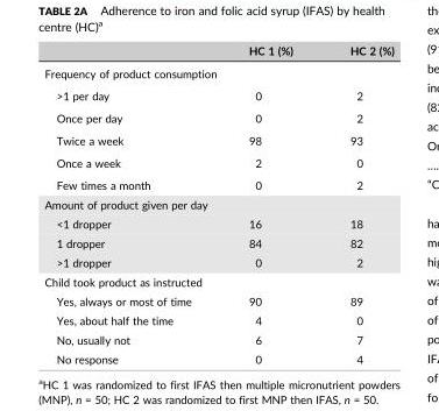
<table><thead><tr><td></td><td>HC 1 (%)</td><td>HC 2 (%)</td></tr></thead><tbody><tr><td colspan="3">Frequency of product consumption</td></tr><tr><td>&gt;1 per day</td><td>0</td><td>2</td></tr><tr><td>Once per day</td><td>0</td><td>2</td></tr><tr><td>Twice a week</td><td>98</td><td>93</td></tr><tr><td>Once a week</td><td>2</td><td>0</td></tr><tr><td>Few times a month</td><td>0</td><td>2</td></tr><tr><td colspan="3">Amount of product given per day</td></tr><tr><td>&lt;1 dropper</td><td>16</td><td>18</td></tr><tr><td>1 dropper</td><td>84</td><td>82</td></tr><tr><td>&gt;1 dropper</td><td>0</td><td>2</td></tr><tr><td colspan="3">Child took product as instructed</td></tr><tr><td>Yes, always or most of time</td><td>90</td><td>89</td></tr><tr><td>Yes, about half the time</td><td>4</td><td>0</td></tr><tr><td>No, usually not</td><td>6</td><td>7</td></tr><tr><td>No response</td><td>0</td><td>4</td></tr></tbody></table>